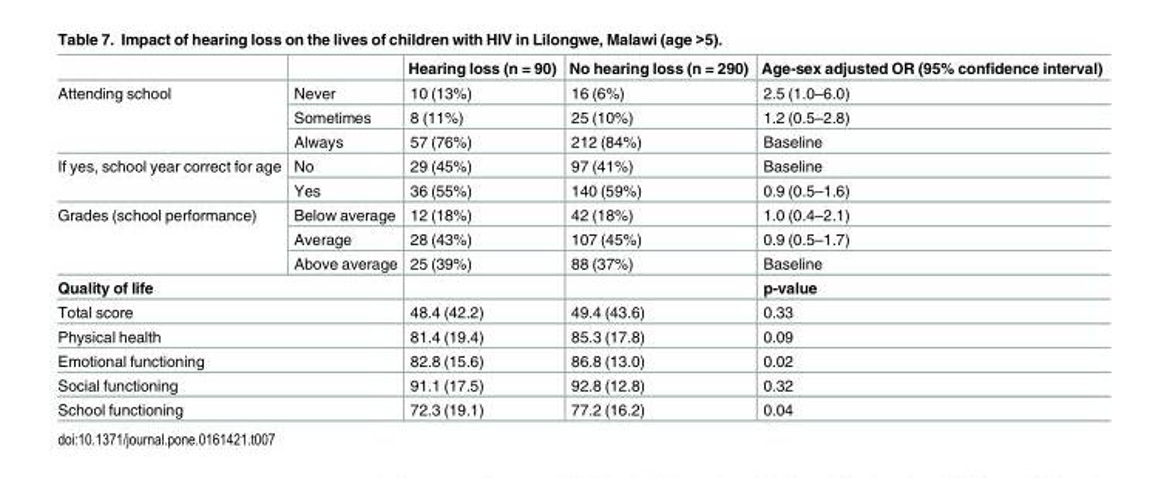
<table><thead><tr><td></td><td></td><td>Hearing loss (n = 90)</td><td>No hearing loss (n = 290)</td><td>Age-sex adjusted OR (95% confidence interval)</td></tr></thead><tbody><tr><td rowspan="3">Attending school</td><td>Never</td><td>10 (13%)</td><td>16 (6%)</td><td>2.5 (1.0–6.0)</td></tr><tr><td>Sometimes</td><td>8 (11%)</td><td>25 (10%)</td><td>1.2 (0.5–2.8)</td></tr><tr><td>Always</td><td>57 (76%)</td><td>212 (84%)</td><td>Baseline</td></tr><tr><td rowspan="2">If yes, school year correct for age</td><td>No</td><td>29 (45%)</td><td>97 (41%)</td><td>Baseline</td></tr><tr><td>Yes</td><td>36 (55%)</td><td>140 (59%)</td><td>0.9 (0.5–1.6)</td></tr><tr><td rowspan="3">Grades (school performance)</td><td>Below average</td><td>12 (18%)</td><td>42 (18%)</td><td>1.0 (0.4–2.1)</td></tr><tr><td>Average</td><td>28 (43%)</td><td>107 (45%)</td><td>0.9 (0.5–1.7)</td></tr><tr><td>Above average</td><td>25 (39%)</td><td>88 (37%)</td><td>Baseline</td></tr><tr><td colspan="2">Quality of life</td><td></td><td></td><td>p-value</td></tr><tr><td colspan="2">Total score</td><td>48.4 (42.2)</td><td>49.4 (43.6)</td><td>0.33</td></tr><tr><td colspan="2">Physical health</td><td>81.4 (19.4)</td><td>85.3 (17.8)</td><td>0.09</td></tr><tr><td colspan="2">Emotional functioning</td><td>82.8 (15.6)</td><td>86.8 (13.0)</td><td>0.02</td></tr><tr><td colspan="2">Social functioning</td><td>91.1 (17.5)</td><td>92.8 (12.8)</td><td>0.32</td></tr><tr><td colspan="2">School functioning</td><td>72.3 (19.1)</td><td>77.2 (16.2)</td><td>0.04</td></tr></tbody></table>